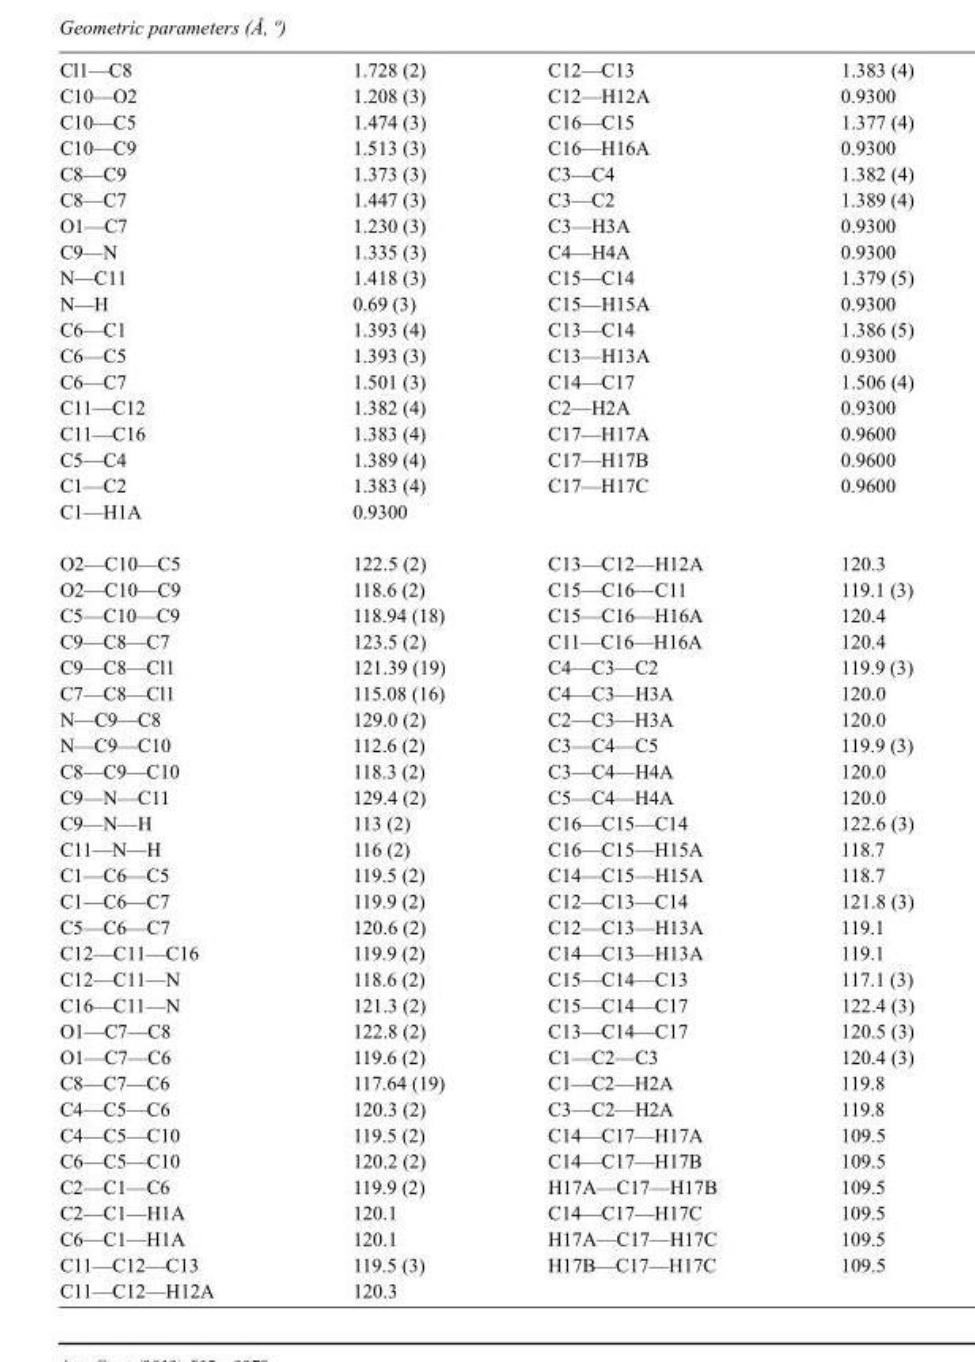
<table><tbody><tr><td>Cl1—C8</td><td>1.728 (2)</td><td>C12—C13</td><td>1.383 (4)</td></tr><tr><td>C10—O2</td><td>1.208 (3)</td><td>C12—H12A</td><td>0.9300</td></tr><tr><td>C10—C5</td><td>1.474 (3)</td><td>C16—C15</td><td>1.377 (4)</td></tr><tr><td>C10—C9</td><td>1.513 (3)</td><td>C16—H16A</td><td>0.9300</td></tr><tr><td>C8—C9</td><td>1.373 (3)</td><td>C3—C4</td><td>1.382 (4)</td></tr><tr><td>C8—C7</td><td>1.447 (3)</td><td>C3—C2</td><td>1.389 (4)</td></tr><tr><td>O1—C7</td><td>1.230 (3)</td><td>C3—H3A</td><td>0.9300</td></tr><tr><td>C9—N</td><td>1.335 (3)</td><td>C4—H4A</td><td>0.9300</td></tr><tr><td>N—C11</td><td>1.418 (3)</td><td>C15—C14</td><td>1.379 (5)</td></tr><tr><td>N—H</td><td>0.69 (3)</td><td>C15—H15A</td><td>0.9300</td></tr><tr><td>C6—C1</td><td>1.393 (4)</td><td>C13—C14</td><td>1.386 (5)</td></tr><tr><td>C6—C5</td><td>1.393 (3)</td><td>C13—H13A</td><td>0.9300</td></tr><tr><td>C6—C7</td><td>1.501 (3)</td><td>C14—C17</td><td>1.506 (4)</td></tr><tr><td>C11—C12</td><td>1.382 (4)</td><td>C2—H2A</td><td>0.9300</td></tr><tr><td>C11—C16</td><td>1.383 (4)</td><td>C17—H17A</td><td>0.9600</td></tr><tr><td>C5—C4</td><td>1.389 (4)</td><td>C17—H17B</td><td>0.9600</td></tr><tr><td>C1—C2</td><td>1.383 (4)</td><td>C17—H17C</td><td>0.9600</td></tr><tr><td>C1—H1A</td><td>0.9300</td><td></td><td></td></tr><tr><td>O2—C10—C5</td><td>122.5 (2)</td><td>C13—C12—H12A</td><td>120.3</td></tr><tr><td>O2—C10—C9</td><td>118.6 (2)</td><td>C15—C16—C11</td><td>119.1 (3)</td></tr><tr><td>C5—C10—C9</td><td>118.94 (18)</td><td>C15—C16—H16A</td><td>120.4</td></tr><tr><td>C9—C8—C7</td><td>123.5 (2)</td><td>C11—C16—H16A</td><td>120.4</td></tr><tr><td>C9—C8—Cl1</td><td>121.39 (19)</td><td>C4—C3—C2</td><td>119.9 (3)</td></tr><tr><td>C7—C8—Cl1</td><td>115.08 (16)</td><td>C4—C3—H3A</td><td>120.0</td></tr><tr><td>N—C9—C8</td><td>129.0 (2)</td><td>C2—C3—H3A</td><td>120.0</td></tr><tr><td>N—C9—C10</td><td>112.6 (2)</td><td>C3—C4—C5</td><td>119.9 (3)</td></tr><tr><td>C8—C9—C10</td><td>118.3 (2)</td><td>C3—C4—H4A</td><td>120.0</td></tr><tr><td>C9—N—C11</td><td>129.4 (2)</td><td>C5—C4—H4A</td><td>120.0</td></tr><tr><td>C9—N—H</td><td>113 (2)</td><td>C16—C15—C14</td><td>122.6 (3)</td></tr><tr><td>C11—N—H</td><td>116 (2)</td><td>C16—C15—H15A</td><td>118.7</td></tr><tr><td>C1—C6—C5</td><td>119.5 (2)</td><td>C14—C15—H15A</td><td>118.7</td></tr><tr><td>C1—C6—C7</td><td>119.9 (2)</td><td>C12—C13—C14</td><td>121.8 (3)</td></tr><tr><td>C5—C6—C7</td><td>120.6 (2)</td><td>C12—C13—H13A</td><td>119.1</td></tr><tr><td>C12—C11—C16</td><td>119.9 (2)</td><td>C14—C13—H13A</td><td>119.1</td></tr><tr><td>C12—C11—N</td><td>118.6 (2)</td><td>C15—C14—C13</td><td>117.1 (3)</td></tr><tr><td>C16—C11—N</td><td>121.3 (2)</td><td>C15—C14—C17</td><td>122.4 (3)</td></tr><tr><td>O1—C7—C8</td><td>122.8 (2)</td><td>C13—C14—C17</td><td>120.5 (3)</td></tr><tr><td>O1—C7—C6</td><td>119.6 (2)</td><td>C1—C2—C3</td><td>120.4 (3)</td></tr><tr><td>C8—C7—C6</td><td>117.64 (19)</td><td>C1—C2—H2A</td><td>119.8</td></tr><tr><td>C4—C5—C6</td><td>120.3 (2)</td><td>C3—C2—H2A</td><td>119.8</td></tr><tr><td>C4—C5—C10</td><td>119.5 (2)</td><td>C14—C17—H17A</td><td>109.5</td></tr><tr><td>C6—C5—C10</td><td>120.2 (2)</td><td>C14—C17—H17B</td><td>109.5</td></tr><tr><td>C2—C1—C6</td><td>119.9 (2)</td><td>H17A—C17—H17B</td><td>109.5</td></tr><tr><td>C2—C1—H1A</td><td>120.1</td><td>C14—C17—H17C</td><td>109.5</td></tr><tr><td>C6—C1—H1A</td><td>120.1</td><td>H17A—C17—H17C</td><td>109.5</td></tr><tr><td>C11—C12—C13</td><td>119.5 (3)</td><td>H17B—C17—H17C</td><td>109.5</td></tr><tr><td>C11—C12—H12A</td><td>120.3</td><td></td><td></td></tr></tbody></table>